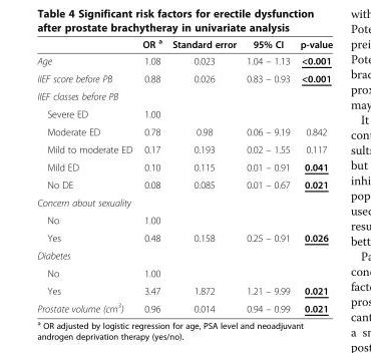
<table><thead><tr><td></td><td>OR <sup>a</sup></td><td>Standard error</td><td>95% CI</td><td>p-value</td></tr></thead><tbody><tr><td>Age</td><td>1.08</td><td>0.023</td><td>1.04 – 1.13</td><td>&lt;0.001</td></tr><tr><td>IIEF score before PB</td><td>0.88</td><td>0.026</td><td>0.83 – 0.93</td><td>&lt;0.001</td></tr><tr><td colspan="5">IIEF classes before PB</td></tr><tr><td>Severe ED</td><td>1.00</td><td></td><td></td><td></td></tr><tr><td>Moderate ED</td><td>0.78</td><td>0.98</td><td>0.06 – 9.19</td><td>0.842</td></tr><tr><td>Mild to moderate ED</td><td>0.17</td><td>0.193</td><td>0.02 – 1.55</td><td>0.117</td></tr><tr><td>Mild ED</td><td>0.10</td><td>0.115</td><td>0.01 – 0.91</td><td>0.041</td></tr><tr><td>No DE</td><td>0.08</td><td>0.085</td><td>0.01 – 0.67</td><td>0.021</td></tr><tr><td colspan="5">Concern about sexuality</td></tr><tr><td>No</td><td>1.00</td><td></td><td></td><td></td></tr><tr><td>Yes</td><td>0.48</td><td>0.158</td><td>0.25 – 0.91</td><td>0.026</td></tr><tr><td colspan="5">Diabetes</td></tr><tr><td>No</td><td>1.00</td><td></td><td></td><td></td></tr><tr><td>Yes</td><td>3.47</td><td>1.872</td><td>1.21 – 9.99</td><td>0.021</td></tr><tr><td>Prostate volume (cm<sup>3</sup>)</td><td>0.96</td><td>0.014</td><td>0.94 – 0.99</td><td>0.021</td></tr></tbody></table>